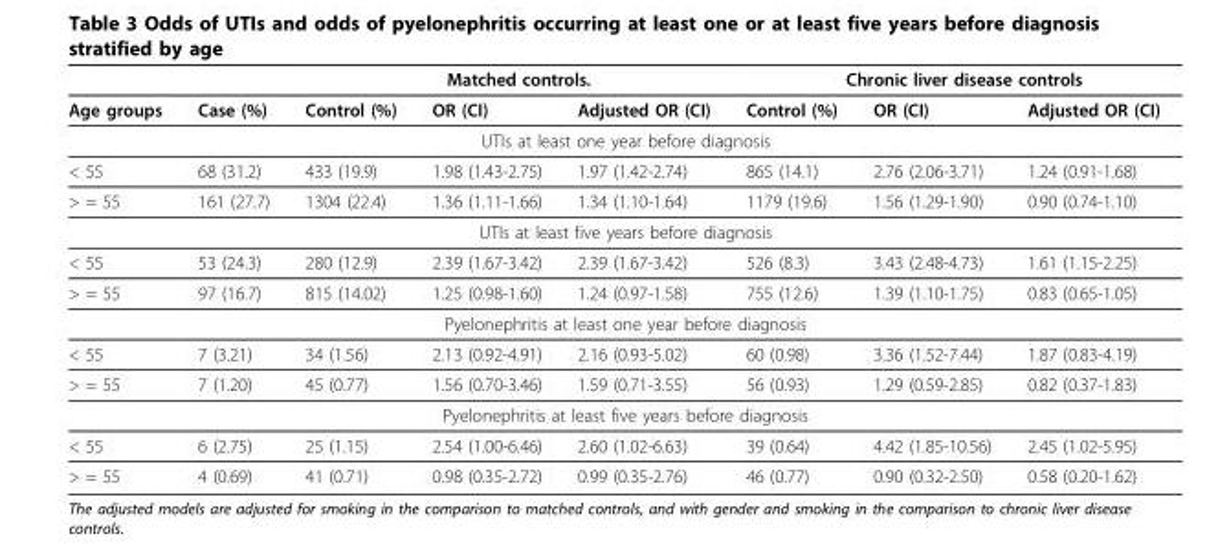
<table><thead><tr><td rowspan="2">Age groups</td><td rowspan="2">Case (%)</td><td colspan="3">Matched controls.</td><td colspan="3">Chronic liver disease controls</td></tr><tr><td>Control (%)</td><td>OR (CI)</td><td>Adjusted OR (CI)</td><td>Control (%)</td><td>OR (CI)</td><td>Adjusted OR (CI)</td></tr></thead><tbody><tr><td colspan="8">UTIs at least one year before diagnosis</td></tr><tr><td>&lt; 55</td><td>68 (31.2)</td><td>433 (19.9)</td><td>1.98 (1.43-2.75)</td><td>1.97 (1.42-2.74)</td><td>865 (14.1)</td><td>2.76 (2.06-3.71)</td><td>1.24 (0.91-1.68)</td></tr><tr><td>&gt; = 55</td><td>161 (27.7)</td><td>1304 (22.4)</td><td>1.36 (1.11-1.66)</td><td>1.34 (1.10-1.64)</td><td>1179 (19.6)</td><td>1.56 (1.29-1.90)</td><td>0.90 (0.74-1.10)</td></tr><tr><td colspan="8">UTIs at least five years before diagnosis</td></tr><tr><td>&lt; 55</td><td>53 (24.3)</td><td>280 (12.9)</td><td>2.39 (1.67-3.42)</td><td>2.39 (1.67-3.42)</td><td>526 (8.3)</td><td>3.43 (2.48-4.73)</td><td>1.61 (1.15-2.25)</td></tr><tr><td>&gt; = 55</td><td>97 (16.7)</td><td>815 (14.02)</td><td>1.25 (0.98-1.60)</td><td>1.24 (0.97-1.58)</td><td>755 (12.6)</td><td>1.39 (1.10-1.75)</td><td>0.83 (0.65-1.05)</td></tr><tr><td colspan="8">Pyelonephritis at least one year before diagnosis</td></tr><tr><td>&lt; 55</td><td>7 (3.21)</td><td>34 (1.56)</td><td>2.13 (0.92-4.91)</td><td>2.16 (0.93-5.02)</td><td>60 (0.98)</td><td>3.36 (1.52-7.44)</td><td>1.87 (0.83-4.19)</td></tr><tr><td>&gt; = 55</td><td>7 (1.20)</td><td>45 (0.77)</td><td>1.56 (0.70-3.46)</td><td>1.59 (0.71-3.55)</td><td>56 (0.93)</td><td>1.29 (0.59-2.85)</td><td>0.82 (0.37-1.83)</td></tr><tr><td colspan="8">Pyelonephritis at least five years before diagnosis</td></tr><tr><td>&lt; 55</td><td>6 (2.75)</td><td>25 (1.15)</td><td>2.54 (1.00-6.46)</td><td>2.60 (1.02-6.63)</td><td>39 (0.64)</td><td>4.42 (1.85-10.56)</td><td>2.45 (1.02-5.95)</td></tr><tr><td>&gt; = 55</td><td>4 (0.69)</td><td>41 (0.71)</td><td>0.98 (0.35-2.72)</td><td>0.99 (0.35-2.76)</td><td>46 (0.77)</td><td>0.90 (0.32-2.50)</td><td>0.58 (0.20-1.62)</td></tr></tbody></table>